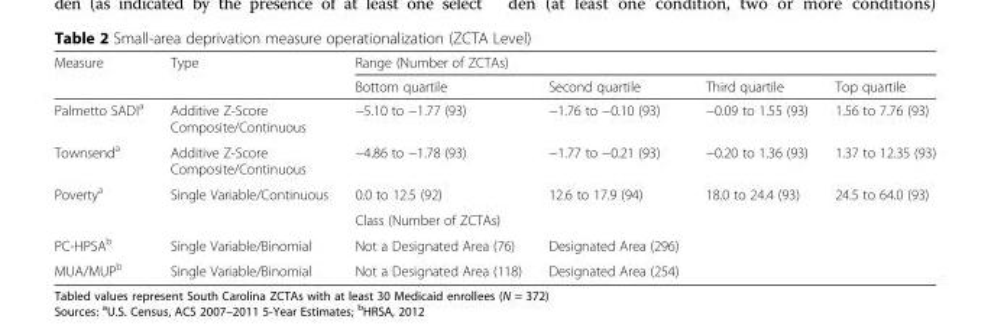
<table><thead><tr><td rowspan="2">Measure</td><td rowspan="2">Type</td><td colspan="4">Range (Number of ZCTAs)</td></tr><tr><td>Bottom quartile</td><td>Second quartile</td><td>Third quartile</td><td>Top quartile</td></tr></thead><tbody><tr><td>Palmetto SADI<sup>a</sup></td><td>Additive Z-Score Composite/Continuous</td><td>−5.10 to −1.77 (93)</td><td>−1.76 to −0.10 (93)</td><td>−0.09 to 1.55 (93)</td><td>1.56 to 7.76 (93)</td></tr><tr><td>Townsend<sup>a</sup></td><td>Additive Z-Score Composite/Continuous</td><td>−4.86 to −1.78 (93)</td><td>−1.77 to −0.21 (93)</td><td>−0.20 to 1.36 (93)</td><td>1.37 to 12.35 (93)</td></tr><tr><td>Poverty<sup>a</sup></td><td>Single Variable/Continuous</td><td>0.0 to 12.5 (92)</td><td>12.6 to 17.9 (94)</td><td>18.0 to 24.4 (93)</td><td>24.5 to 64.0 (93)</td></tr><tr><td colspan="2"></td><td colspan="2">Class (Number of ZCTAs)</td><td rowspan="3" colspan="2"></td></tr><tr><td>PC-HPSA<sup>b</sup></td><td>Single Variable/Binomial</td><td>Not a Designated Area (76)</td><td>Designated Area (296)</td></tr><tr><td>MUA/MUP<sup>b</sup></td><td>Single Variable/Binomial</td><td>Not a Designated Area (118)</td><td>Designated Area (254)</td></tr></tbody></table>